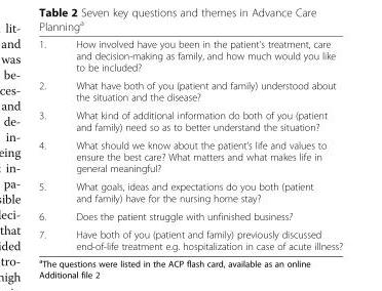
<table><tbody><tr><td>1.</td><td>How involved have you been in the patient’s treatment, care and decision-making as family, and how much would you like to be included?</td></tr><tr><td>2.</td><td>What have both of you (patient and family) understood about the situation and the disease?</td></tr><tr><td>3.</td><td>What kind of additional information do both of you (patient and family) need so as to better understand the situation?</td></tr><tr><td>4.</td><td>What should we know about the patient’s life and values to ensure the best care? What matters and what makes life in general meaningful?</td></tr><tr><td>5.</td><td>What goals, ideas and expectations do you both (patient and family) have for the nursing home stay?</td></tr><tr><td>6.</td><td>Does the patient struggle with unfinished business?</td></tr><tr><td>7.</td><td>Have both of you (patient and family) previously discussed end-of-life treatment e.g. hospitalization in case of acute illness?</td></tr></tbody></table>